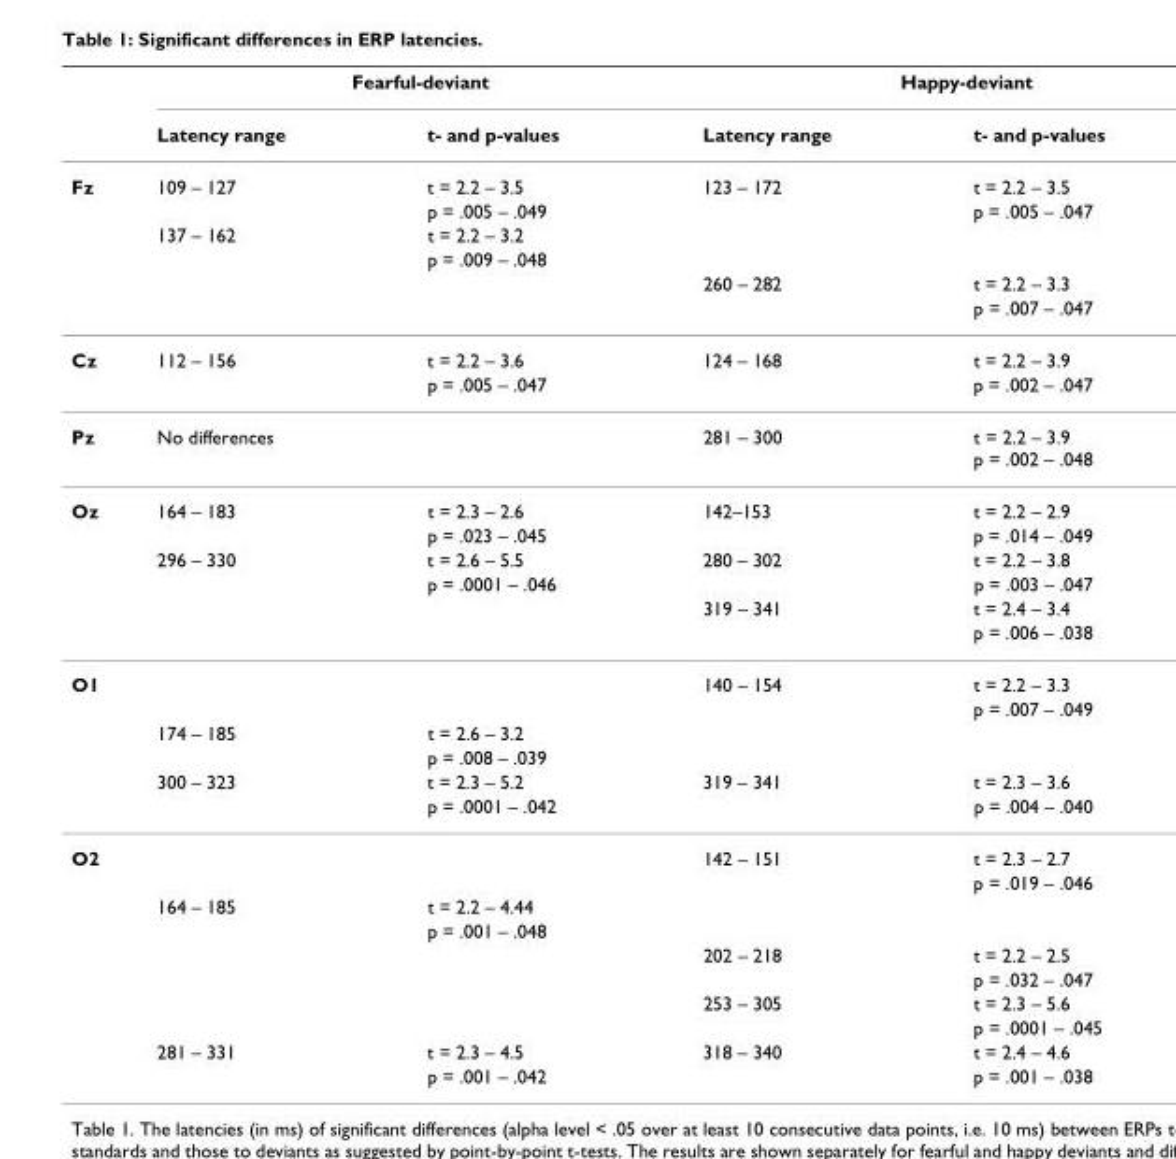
<table><thead><tr><td rowspan="2"></td><td colspan="2">Fearful-deviant</td><td colspan="2">Happy-deviant</td></tr><tr><td>Latency range</td><td>t- and p-values</td><td>Latency range</td><td>t- and p-values</td></tr></thead><tbody><tr><td rowspan="6">Fz</td><td>109 – 127</td><td>t = 2.2 – 3.5</td><td>123 – 172</td><td>t = 2.2 – 3.5</td></tr><tr><td></td><td>p = .005 – .049</td><td></td><td>p = .005 – .047</td></tr><tr><td>137 – 162</td><td>t = 2.2 – 3.2</td><td></td><td></td></tr><tr><td></td><td>p = .009 – .048</td><td></td><td></td></tr><tr><td></td><td></td><td>260 – 282</td><td>t = 2.2 – 3.3</td></tr><tr><td></td><td></td><td></td><td>p = .007 – .047</td></tr><tr><td rowspan="2">Cz</td><td>112 – 156</td><td>t = 2.2 – 3.6</td><td>124 – 168</td><td>t = 2.2 – 3.9</td></tr><tr><td></td><td>p = .005 – .047</td><td></td><td>p = .002 – .047</td></tr><tr><td>Pz</td><td>No differences</td><td></td><td>281 – 300</td><td>t = 2.2 – 3.9 p = .002 – .048</td></tr><tr><td rowspan="6">Oz</td><td>164 – 183</td><td>t = 2.3 – 2.6</td><td>142–153</td><td>t = 2.2 – 2.9</td></tr><tr><td></td><td>p = .023 – .045</td><td></td><td>p = .014 – .049</td></tr><tr><td>296 – 330</td><td>t = 2.6 – 5.5</td><td>280 – 302</td><td>t = 2.2 – 3.8</td></tr><tr><td></td><td>p = .0001 – .046</td><td></td><td>p = .003 – .047</td></tr><tr><td></td><td></td><td>319 – 341</td><td>t = 2.4 – 3.4</td></tr><tr><td></td><td></td><td></td><td>p = .006 – .038</td></tr><tr><td rowspan="6">O1</td><td></td><td></td><td>140 – 154</td><td>t = 2.2 – 3.3</td></tr><tr><td></td><td></td><td></td><td>p = .007 – .049</td></tr><tr><td>174 – 185</td><td>t = 2.6 – 3.2</td><td></td><td></td></tr><tr><td></td><td>p = .008 – .039</td><td></td><td></td></tr><tr><td>300 – 323</td><td>t = 2.3 – 5.2</td><td>319 – 341</td><td>t = 2.3 – 3.6</td></tr><tr><td></td><td>p = .0001 – .042</td><td></td><td>p = .004 – .040</td></tr><tr><td rowspan="10">O2</td><td></td><td></td><td>142 – 151</td><td>t = 2.3 – 2.7</td></tr><tr><td></td><td></td><td></td><td>p = .019 – .046</td></tr><tr><td>164 – 185</td><td>t = 2.2 – 4.44</td><td></td><td></td></tr><tr><td></td><td>p = .001 – .048</td><td></td><td></td></tr><tr><td></td><td></td><td>202 – 218</td><td>t = 2.2 – 2.5</td></tr><tr><td></td><td></td><td></td><td>p = .032 – .047</td></tr><tr><td></td><td></td><td>253 – 305</td><td>t = 2.3 – 5.6</td></tr><tr><td></td><td></td><td></td><td>p = .0001 – .045</td></tr><tr><td>281 – 331</td><td>t = 2.3 – 4.5</td><td>318 – 340</td><td>t = 2.4 – 4.6</td></tr><tr><td></td><td>p = .001 – .042</td><td></td><td>p = .001 – .038</td></tr></tbody></table>